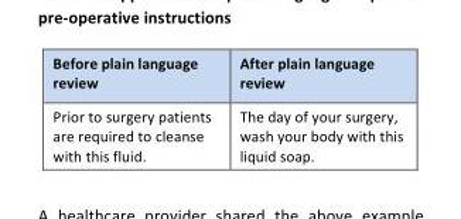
<table><thead><tr><td>Before plain language review</td><td>After plain language review</td></tr></thead><tbody><tr><td>Prior to surgery patients are required to cleanse with this fluid.</td><td>The day of your surgery, wash your body with this liquid soap.</td></tr></tbody></table>